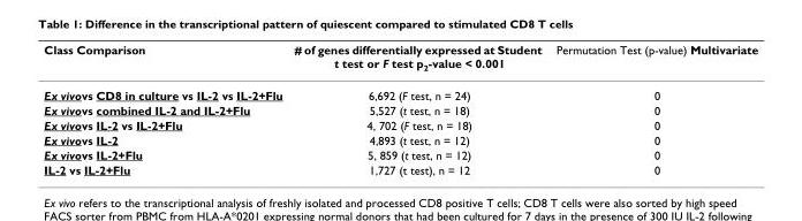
<table><thead><tr><td>Class Comparison</td><td># of genes differentially expressed at Student t test or F test p<sub>2</sub>-value &lt; 0.001</td><td>Permutation Test (p-value) Multivariate</td></tr></thead><tbody><tr><td>Ex vivovs CD8 in culture vs IL-2 vs IL-2+Flu</td><td>6,692 (F test, n = 24)</td><td>0</td></tr><tr><td>Ex vivovs combined IL-2 and IL-2+Flu</td><td>5,527 (t test, n = 18)</td><td>0</td></tr><tr><td>Ex vivovs IL-2 vs IL-2+Flu</td><td>4, 702 (F test, n = 18)</td><td>0</td></tr><tr><td>Ex vivovs IL-2</td><td>4,893 (t test, n = 12)</td><td>0</td></tr><tr><td>Ex vivovs IL-2+Flu</td><td>5, 859 (t test, n = 12)</td><td>0</td></tr><tr><td>IL-2 vs IL-2+Flu</td><td>1,727 (t test), n = 12</td><td>0</td></tr></tbody></table>